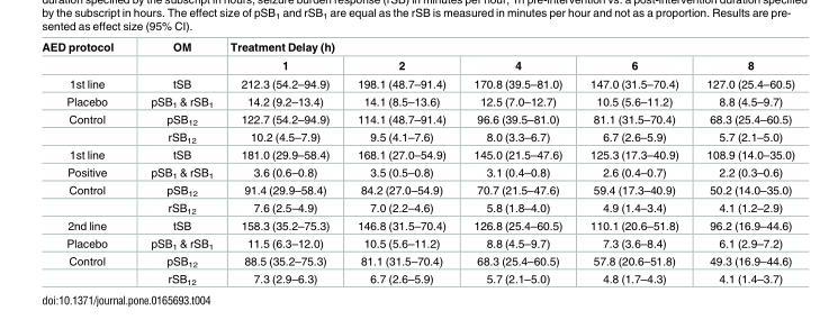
<table><thead><tr><td rowspan="2">AED protocol</td><td rowspan="2">OM</td><td colspan="5">Treatment Delay (h)</td></tr><tr><td>1</td><td>2</td><td>4</td><td>6</td><td>8</td></tr></thead><tbody><tr><td>1st line</td><td>tSB</td><td>212.3 (54.2–94.9)</td><td>198.1 (48.7–91.4)</td><td>170.8 (39.5–81.0)</td><td>147.0 (31.5–70.4)</td><td>127.0 (25.4–60.5)</td></tr><tr><td>Placebo</td><td>pSB<sub>1</sub> &amp; rSB<sub>1</sub></td><td>14.2 (9.2–13.4)</td><td>14.1 (8.5–13.6)</td><td>12.5 (7.0–12.7)</td><td>10.5 (5.6–11.2)</td><td>8.8 (4.5–9.7)</td></tr><tr><td rowspan="2">Control</td><td>pSB<sub>12</sub></td><td>122.7 (54.2–94.9)</td><td>114.1 (48.7–91.4)</td><td>96.6 (39.5–81.0)</td><td>81.1 (31.5–70.4)</td><td>68.3 (25.4–60.5)</td></tr><tr><td>rSB<sub>12</sub></td><td>10.2 (4.5–7.9)</td><td>9.5 (4.1–7.6)</td><td>8.0 (3.3–6.7)</td><td>6.7 (2.6–5.9)</td><td>5.7 (2.1–5.0)</td></tr><tr><td>1st line</td><td>tSB</td><td>181.0 (29.9–58.4)</td><td>168.1 (27.0–54.9)</td><td>145.0 (21.5–47.6)</td><td>125.3 (17.3–40.9)</td><td>108.9 (14.0–35.0)</td></tr><tr><td>Positive</td><td>pSB<sub>1</sub> &amp; rSB<sub>1</sub></td><td>3.6 (0.6–0.8)</td><td>3.5 (0.5–0.8)</td><td>3.1 (0.4–0.8)</td><td>2.6 (0.4–0.7)</td><td>2.2 (0.3–0.6)</td></tr><tr><td rowspan="2">Control</td><td>pSB<sub>12</sub></td><td>91.4 (29.9–58.4)</td><td>84.2 (27.0–54.9)</td><td>70.7 (21.5–47.6)</td><td>59.4 (17.3–40.9)</td><td>50.2 (14.0–35.0)</td></tr><tr><td>rSB<sub>12</sub></td><td>7.6 (2.5–4.9)</td><td>7.0 (2.2–4.6)</td><td>5.8 (1.8–4.0)</td><td>4.9 (1.4–3.4)</td><td>4.1 (1.2–2.9)</td></tr><tr><td>2nd line</td><td>tSB</td><td>158.3 (35.2–75.3)</td><td>146.8 (31.5–70.4)</td><td>126.8 (25.4–60.5)</td><td>110.1 (20.6–51.8)</td><td>96.2 (16.9–44.6)</td></tr><tr><td>Placebo</td><td>pSB<sub>1</sub> &amp; rSB<sub>1</sub></td><td>11.5 (6.3–12.0)</td><td>10.5 (5.6–11.2)</td><td>8.8 (4.5–9.7)</td><td>7.3 (3.6–8.4)</td><td>6.1 (2.9–7.2)</td></tr><tr><td rowspan="2">Control</td><td>pSB<sub>12</sub></td><td>88.5 (35.2–75.3)</td><td>81.1 (31.5–70.4)</td><td>68.3 (25.4–60.5)</td><td>57.8 (20.6–51.8)</td><td>49.3 (16.9–44.6)</td></tr><tr><td>rSB<sub>12</sub></td><td>7.3 (2.9–6.3)</td><td>6.7 (2.6–5.9)</td><td>5.7 (2.1–5.0)</td><td>4.8 (1.7–4.3)</td><td>4.1 (1.4–3.7)</td></tr></tbody></table>